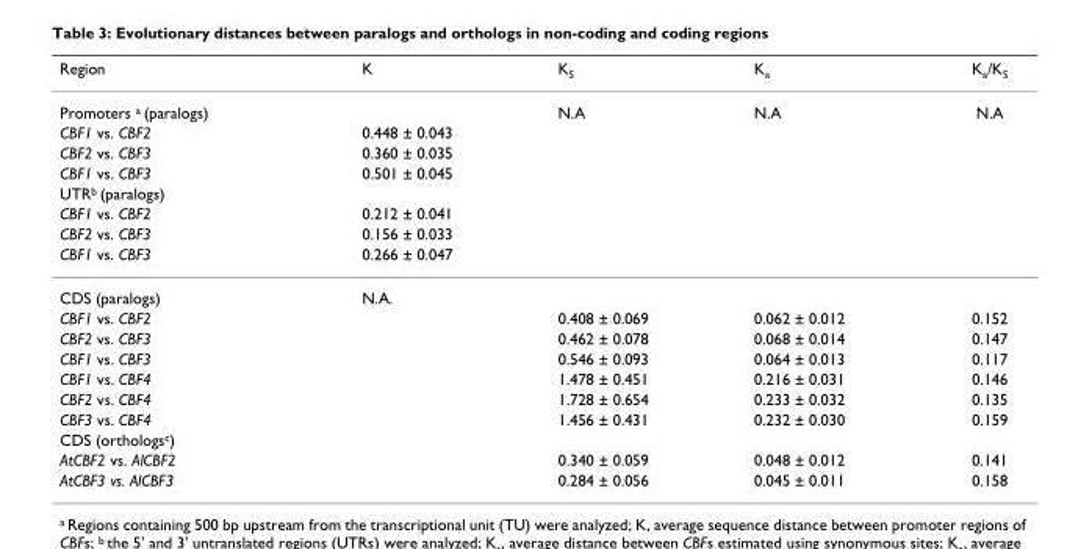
<table><thead><tr><td>Region</td><td>K</td><td>K<sub>S</sub></td><td>K<sub>a</sub></td><td>K<sub>a</sub>/K<sub>S</sub></td></tr></thead><tbody><tr><td>Promoters <sup>a</sup> (paralogs)</td><td></td><td>N.A</td><td>N.A</td><td>N.A</td></tr><tr><td>CBF1 vs. CBF2</td><td>0.448 ± 0.043</td><td></td><td></td><td></td></tr><tr><td>CBF2 vs. CBF3</td><td>0.360 ± 0.035</td><td></td><td></td><td></td></tr><tr><td>CBF1 vs. CBF3</td><td>0.501 ± 0.045</td><td></td><td></td><td></td></tr><tr><td colspan="5">UTR<sup>b</sup> (paralogs)</td></tr><tr><td>CBF1 vs. CBF2</td><td>0.212 ± 0.041</td><td></td><td></td><td></td></tr><tr><td>CBF2 vs. CBF3</td><td>0.156 ± 0.033</td><td></td><td></td><td></td></tr><tr><td>CBF1 vs. CBF3</td><td>0.266 ± 0.047</td><td></td><td></td><td></td></tr><tr><td>CDS (paralogs)</td><td>N.A.</td><td></td><td></td><td></td></tr><tr><td>CBF1 vs. CBF2</td><td></td><td>0.408 ± 0.069</td><td>0.062 ± 0.012</td><td>0.152</td></tr><tr><td>CBF2 vs. CBF3</td><td></td><td>0.462 ± 0.078</td><td>0.068 ± 0.014</td><td>0.147</td></tr><tr><td>CBF1 vs. CBF3</td><td></td><td>0.546 ± 0.093</td><td>0.064 ± 0.013</td><td>0.117</td></tr><tr><td>CBF1 vs. CBF4</td><td></td><td>1.478 ± 0.451</td><td>0.216 ± 0.031</td><td>0.146</td></tr><tr><td>CBF2 vs. CBF4</td><td></td><td>1.728 ± 0.654</td><td>0.233 ± 0.032</td><td>0.135</td></tr><tr><td>CBF3 vs. CBF4</td><td></td><td>1.456 ± 0.431</td><td>0.232 ± 0.030</td><td>0.159</td></tr><tr><td colspan="5">CDS (orthologs<sup>c</sup>)</td></tr><tr><td>AtCBF2 vs. AlCBF2</td><td></td><td>0.340 ± 0.059</td><td>0.048 ± 0.012</td><td>0.141</td></tr><tr><td>AtCBF3 vs. AlCBF3</td><td></td><td>0.284 ± 0.056</td><td>0.045 ± 0.011</td><td>0.158</td></tr></tbody></table>